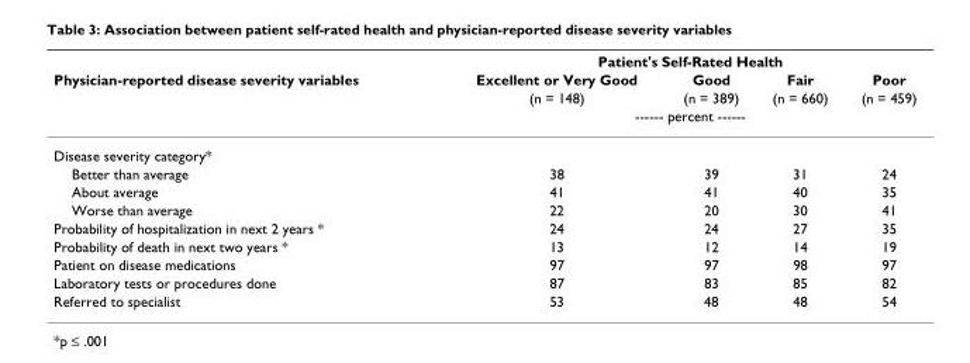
<table><thead><tr><td rowspan="4">Physician-reported disease severity variables</td><td colspan="4">Patient&#x27;s Self-Rated Health</td></tr><tr><td rowspan="2">Excellent or Very Good (n = 148)</td><td rowspan="2">Good (n = 389)</td><td rowspan="2">Fair (n = 660)</td><td rowspan="2">Poor (n = 459)</td></tr><tr></tr><tr><td colspan="4">------ percent ------</td></tr></thead><tbody><tr><td colspan="5">Disease severity category*</td></tr><tr><td>Better than average</td><td>38</td><td>39</td><td>31</td><td>24</td></tr><tr><td>About average</td><td>41</td><td>41</td><td>40</td><td>35</td></tr><tr><td>Worse than average</td><td>22</td><td>20</td><td>30</td><td>41</td></tr><tr><td>Probability of hospitalization in next 2 years *</td><td>24</td><td>24</td><td>27</td><td>35</td></tr><tr><td>Probability of death in next two years *</td><td>13</td><td>12</td><td>14</td><td>19</td></tr><tr><td>Patient on disease medications</td><td>97</td><td>97</td><td>98</td><td>97</td></tr><tr><td>Laboratory tests or procedures done</td><td>87</td><td>83</td><td>85</td><td>82</td></tr><tr><td>Referred to specialist</td><td>53</td><td>48</td><td>48</td><td>54</td></tr></tbody></table>